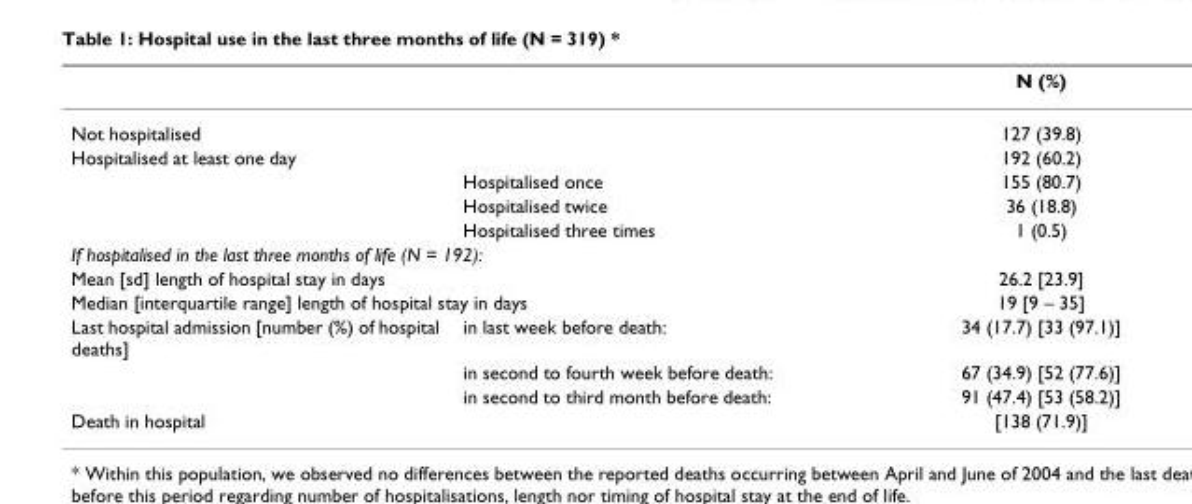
<table><thead><tr><td></td><td></td><td>N (%)</td></tr></thead><tbody><tr><td>Not hospitalised</td><td></td><td>127 (39.8)</td></tr><tr><td rowspan="4">Hospitalised at least one day</td><td></td><td>192 (60.2)</td></tr><tr><td>Hospitalised once</td><td>155 (80.7)</td></tr><tr><td>Hospitalised twice</td><td>36 (18.8)</td></tr><tr><td>Hospitalised three times</td><td>1 (0.5)</td></tr><tr><td colspan="3">If hospitalised in the last three months of life (N = 192):</td></tr><tr><td colspan="2">Mean [sd] length of hospital stay in days</td><td>26.2 [23.9]</td></tr><tr><td colspan="2">Median [interquartile range] length of hospital stay in days</td><td>19 [9 – 35]</td></tr><tr><td rowspan="3">Last hospital admission [number (%) of hospital deaths]</td><td>in last week before death:</td><td>34 (17.7) [33 (97.1)]</td></tr><tr><td>in second to fourth week before death:</td><td>67 (34.9) [52 (77.6)]</td></tr><tr><td>in second to third month before death:</td><td>91 (47.4) [53 (58.2)]</td></tr><tr><td>Death in hospital</td><td></td><td>[138 (71.9)]</td></tr></tbody></table>